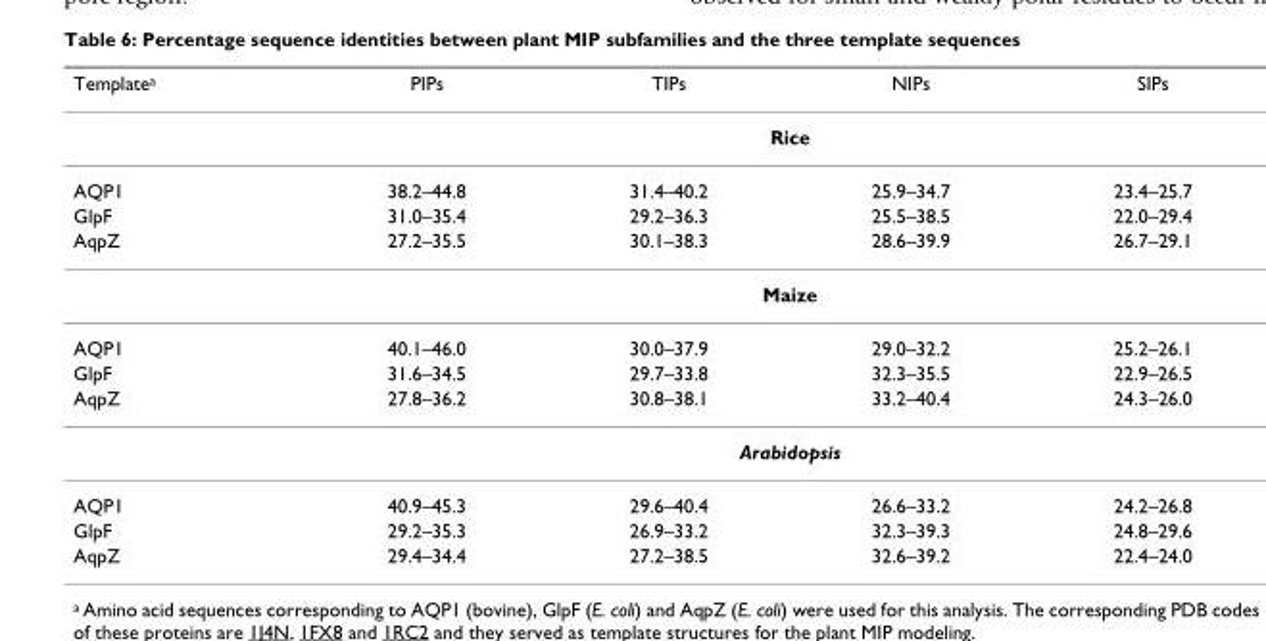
<table><thead><tr><td>Templatea</td><td>PIPs</td><td>TIPs</td><td>NIPs</td><td>SIPs</td></tr></thead><tbody><tr><td></td><td colspan="4">Rice</td></tr><tr><td>AQP1</td><td>38.2–44.8</td><td>31.4–40.2</td><td>25.9–34.7</td><td>23.4–25.7</td></tr><tr><td>GlpF</td><td>31.0–35.4</td><td>29.2–36.3</td><td>25.5–38.5</td><td>22.0–29.4</td></tr><tr><td rowspan="2">AqpZ</td><td>27.2–35.5</td><td>30.1–38.3</td><td>28.6–39.9</td><td>26.7–29.1</td></tr><tr><td colspan="4">Maize</td></tr><tr><td>AQP1</td><td>40.1–46.0</td><td>30.0–37.9</td><td>29.0–32.2</td><td>25.2–26.1</td></tr><tr><td>GlpF</td><td>31.6–34.5</td><td>29.7–33.8</td><td>32.3–35.5</td><td>22.9–26.5</td></tr><tr><td rowspan="2">AqpZ</td><td>27.8–36.2</td><td>30.8–38.1</td><td>33.2–40.4</td><td>24.3–26.0</td></tr><tr><td colspan="4">Arabidopsis</td></tr><tr><td>AQP1</td><td>40.9–45.3</td><td>29.6–40.4</td><td>26.6–33.2</td><td>24.2–26.8</td></tr><tr><td>GlpF</td><td>29.2–35.3</td><td>26.9–33.2</td><td>32.3–39.3</td><td>24.8–29.6</td></tr><tr><td>AqpZ</td><td>29.4–34.4</td><td>27.2–38.5</td><td>32.6–39.2</td><td>22.4–24.0</td></tr></tbody></table>